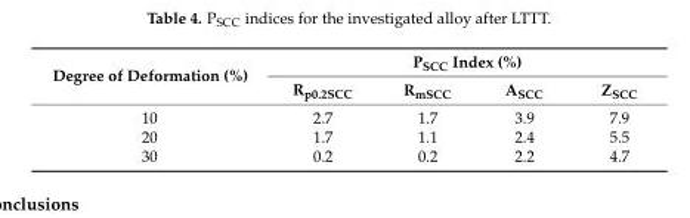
<table><thead><tr><td rowspan="2">Degree of Deformation (%)</td><td colspan="4">P<sub>SCC</sub> Index (%)</td></tr><tr><td>R<sub>p0.2SCC</sub></td><td>R<sub>mSCC</sub></td><td>A<sub>SCC</sub></td><td>Z<sub>SCC</sub></td></tr></thead><tbody><tr><td>10</td><td>2.7</td><td>1.7</td><td>3.9</td><td>7.9</td></tr><tr><td>20</td><td>1.7</td><td>1.1</td><td>2.4</td><td>5.5</td></tr><tr><td>30</td><td>0.2</td><td>0.2</td><td>2.2</td><td>4.7</td></tr></tbody></table>